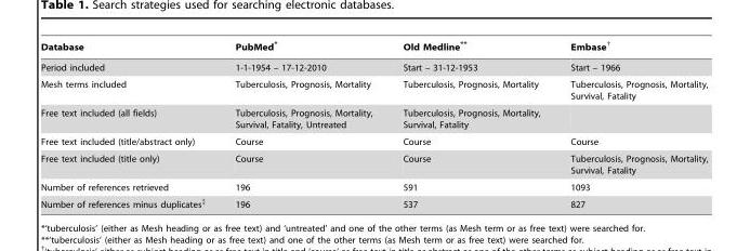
<table><thead><tr><td>Database</td><td>PubMed*</td><td>Old Medline**</td><td>Embase†</td></tr></thead><tbody><tr><td>Period included</td><td>1-1-1954 – 17-12-2010</td><td>Start – 31-12-1953</td><td>Start – 1966</td></tr><tr><td>Mesh terms included</td><td>Tuberculosis, Prognosis, Mortality</td><td>Tuberculosis, Prognosis, Mortality</td><td>Tuberculosis, Prognosis, Mortality, Survival, Fatality</td></tr><tr><td>Free text included (all fields)</td><td>Tuberculosis, Prognosis, Mortality, Survival, Fatality, Untreated</td><td>Tuberculosis, Prognosis, Mortality, Survival, Fatality</td><td></td></tr><tr><td>Free text included (title/abstract only)</td><td>Course</td><td>Course</td><td>Course</td></tr><tr><td>Free text included (title only)</td><td>Course</td><td>Course</td><td>Tuberculosis, Prognosis, Mortality, Survival, Fatality</td></tr><tr><td>Number of references retrieved</td><td>196</td><td>591</td><td>1093</td></tr><tr><td>Number of references minus duplicates‡</td><td>196</td><td>537</td><td>827</td></tr></tbody></table>